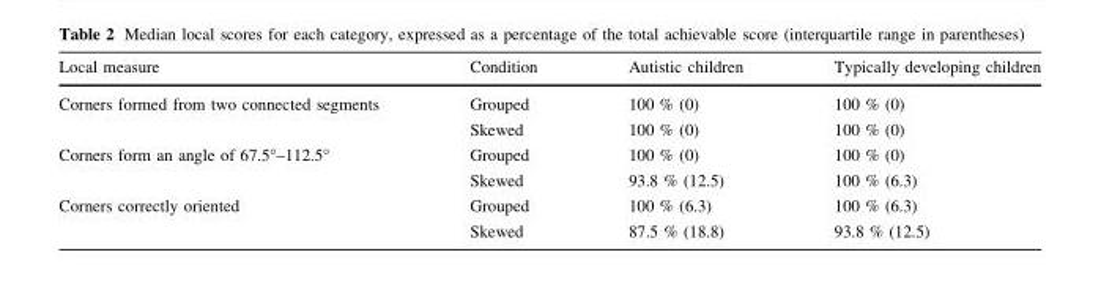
<table><thead><tr><td>Local measure</td><td>Condition</td><td>Autistic children</td><td>Typically developing children</td></tr></thead><tbody><tr><td rowspan="2">Corners formed from two connected segments</td><td>Grouped</td><td>100 % (0)</td><td>100 % (0)</td></tr><tr><td>Skewed</td><td>100 % (0)</td><td>100 % (0)</td></tr><tr><td rowspan="2">Corners form an angle of 67.5°–112.5°</td><td>Grouped</td><td>100 % (0)</td><td>100 % (0)</td></tr><tr><td>Skewed</td><td>93.8 % (12.5)</td><td>100 % (6.3)</td></tr><tr><td rowspan="2">Corners correctly oriented</td><td>Grouped</td><td>100 % (6.3)</td><td>100 % (6.3)</td></tr><tr><td>Skewed</td><td>87.5 % (18.8)</td><td>93.8 % (12.5)</td></tr></tbody></table>